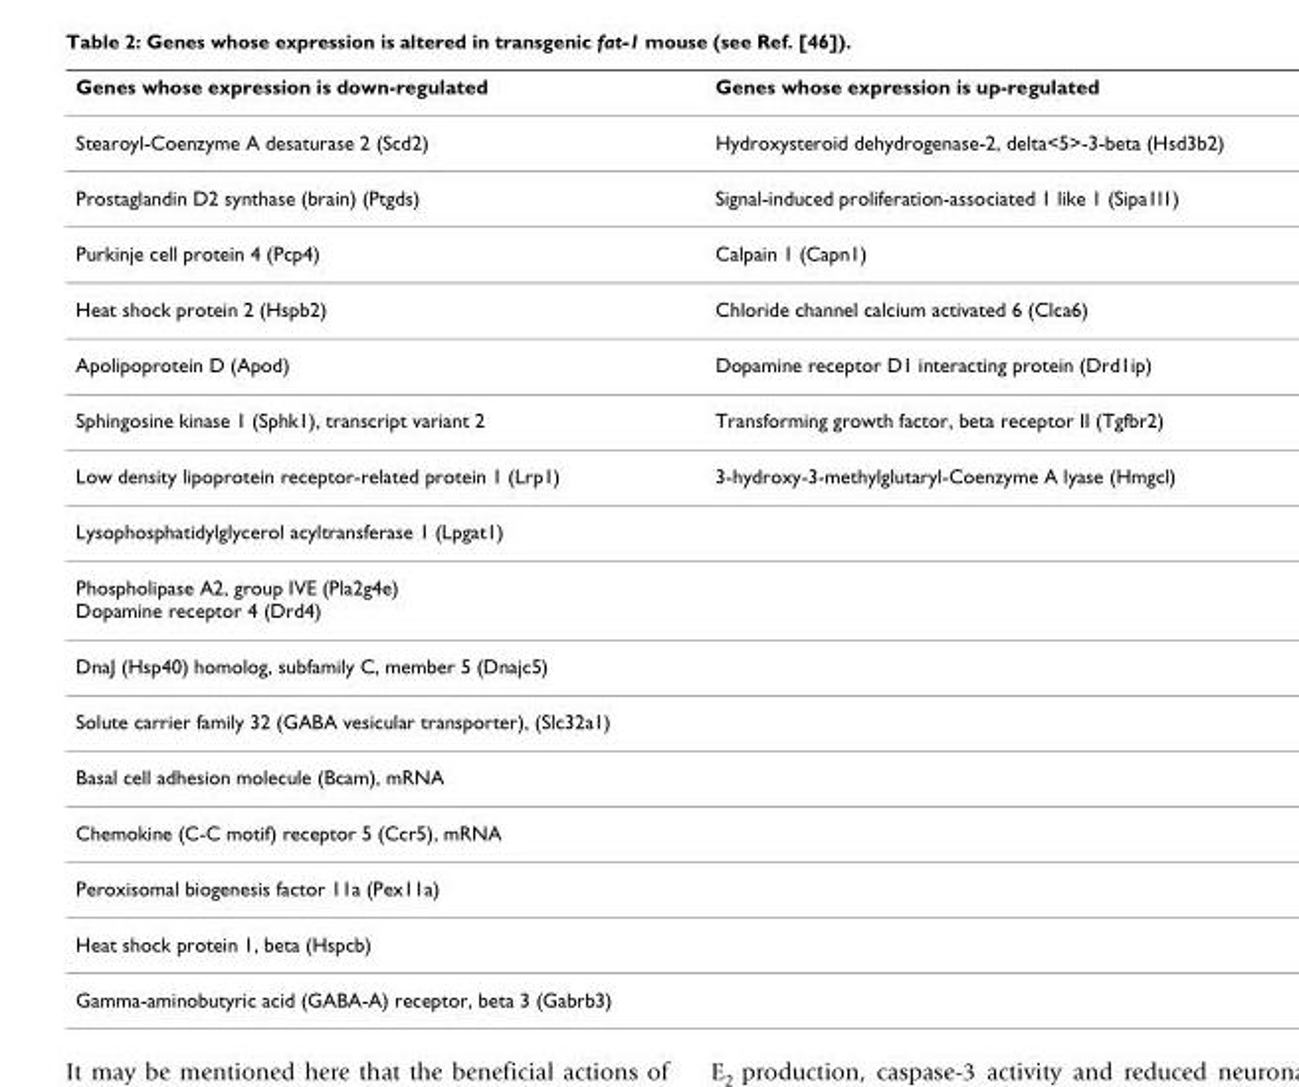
<table><thead><tr><td>Genes whose expression is down-regulated</td><td>Genes whose expression is up-regulated</td></tr></thead><tbody><tr><td>Stearoyl-Coenzyme A desaturase 2 (Scd2)</td><td>Hydroxysteroid dehydrogenase-2, delta&lt;5&gt;-3-beta (Hsd3b2)</td></tr><tr><td>Prostaglandin D2 synthase (brain) (Ptgds)</td><td>Signal-induced proliferation-associated 1 like 1 (Sipa1l1)</td></tr><tr><td>Purkinje cell protein 4 (Pcp4)</td><td>Calpain 1 (Capn1)</td></tr><tr><td>Heat shock protein 2 (Hspb2)</td><td>Chloride channel calcium activated 6 (Clca6)</td></tr><tr><td>Apolipoprotein D (Apod)</td><td>Dopamine receptor D1 interacting protein (Drd1ip)</td></tr><tr><td>Sphingosine kinase 1 (Sphk1), transcript variant 2</td><td>Transforming growth factor, beta receptor II (Tgfbr2)</td></tr><tr><td>Low density lipoprotein receptor-related protein 1 (Lrp1)</td><td>3-hydroxy-3-methylglutaryl-Coenzyme A lyase (Hmgcl)</td></tr><tr><td colspan="2">Lysophosphatidylglycerol acyltransferase 1 (Lpgat1)</td></tr><tr><td colspan="2">Phospholipase A2, group IVE (Pla2g4e) Dopamine receptor 4 (Drd4)</td></tr><tr><td colspan="2">DnaJ (Hsp40) homolog, subfamily C, member 5 (Dnajc5)</td></tr><tr><td colspan="2">Solute carrier family 32 (GABA vesicular transporter), (Slc32a1)</td></tr><tr><td colspan="2">Basal cell adhesion molecule (Bcam), mRNA</td></tr><tr><td colspan="2">Chemokine (C-C motif) receptor 5 (Ccr5), mRNA</td></tr><tr><td colspan="2">Peroxisomal biogenesis factor 11a (Pex11a)</td></tr><tr><td colspan="2">Heat shock protein 1, beta (Hspcb)</td></tr><tr><td>Gamma-aminobutyric acid (GABA-A) receptor, beta 3 (Gabrb3)</td><td></td></tr></tbody></table>